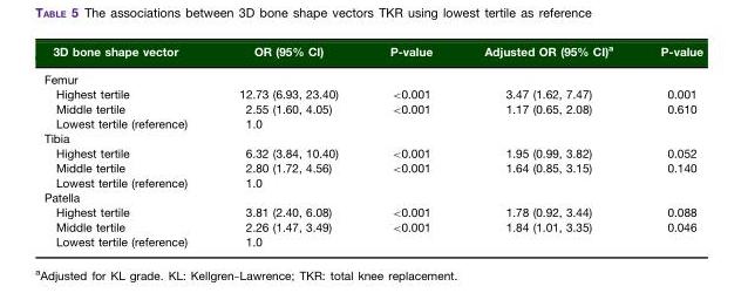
<table><thead><tr><td>3D bone shape vector</td><td>OR (95% CI)</td><td>P-value</td><td>Adjusted OR (95% CI)<sup>a</sup></td><td>P-value</td></tr></thead><tbody><tr><td colspan="5">Femur</td></tr><tr><td>Highest tertile</td><td>12.73 (6.93, 23.40)</td><td>&lt;0.001</td><td>3.47 (1.62, 7.47)</td><td>0.001</td></tr><tr><td>Middle tertile</td><td>2.55 (1.60, 4.05)</td><td>&lt;0.001</td><td>1.17 (0.65, 2.08)</td><td>0.610</td></tr><tr><td>Lowest tertile (reference)</td><td>1.0</td><td></td><td></td><td></td></tr><tr><td colspan="5">Tibia</td></tr><tr><td>Highest tertile</td><td>6.32 (3.84, 10.40)</td><td>&lt;0.001</td><td>1.95 (0.99, 3.82)</td><td>0.052</td></tr><tr><td>Middle tertile</td><td>2.80 (1.72, 4.56)</td><td>&lt;0.001</td><td>1.64 (0.85, 3.15)</td><td>0.140</td></tr><tr><td>Lowest tertile (reference)</td><td>1.0</td><td></td><td></td><td></td></tr><tr><td colspan="5">Patella</td></tr><tr><td>Highest tertile</td><td>3.81 (2.40, 6.08)</td><td>&lt;0.001</td><td>1.78 (0.92, 3.44)</td><td>0.088</td></tr><tr><td>Middle tertile</td><td>2.26 (1.47, 3.49)</td><td>&lt;0.001</td><td>1.84 (1.01, 3.35)</td><td>0.046</td></tr><tr><td>Lowest tertile (reference)</td><td>1.0</td><td></td><td></td><td></td></tr></tbody></table>